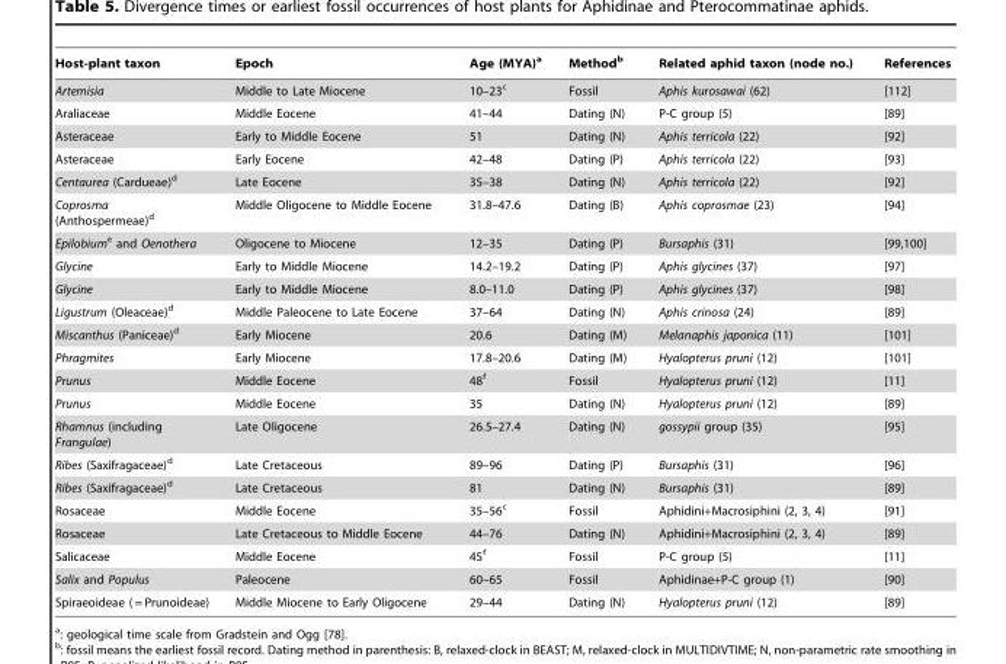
<table><thead><tr><td>Host-plant taxon</td><td>Epoch</td><td>Age (MYA)<sup>a</sup></td><td>Method<sup>b</sup></td><td>Related aphid taxon (node no.)</td><td>References</td></tr></thead><tbody><tr><td>Artemisia</td><td>Middle to Late Miocene</td><td>10–23<sup>c</sup></td><td>Fossil</td><td>Aphis kurosawai (62)</td><td>[112]</td></tr><tr><td>Araliaceae</td><td>Middle Eocene</td><td>41–44</td><td>Dating (N)</td><td>P-C group (5)</td><td>[89]</td></tr><tr><td>Asteraceae</td><td>Early to Middle Eocene</td><td>51</td><td>Dating (N)</td><td>Aphis terricola (22)</td><td>[92]</td></tr><tr><td>Asteraceae</td><td>Early Eocene</td><td>42–48</td><td>Dating (P)</td><td>Aphis terricola (22)</td><td>[93]</td></tr><tr><td>Centaurea (Cardueae)<sup>d</sup></td><td>Late Eocene</td><td>35–38</td><td>Dating (N)</td><td>Aphis terricola (22)</td><td>[92]</td></tr><tr><td>Coprosma (Anthospermeae)<sup>d</sup></td><td>Middle Oligocene to Middle Eocene</td><td>31.8–47.6</td><td>Dating (B)</td><td>Aphis coprosmae (23)</td><td>[94]</td></tr><tr><td>Epilobiume and Oenothera</td><td>Oligocene to Miocene</td><td>12–35</td><td>Dating (P)</td><td>Bursaphis (31)</td><td>[99,100]</td></tr><tr><td>Glycine</td><td>Early to Middle Miocene</td><td>14.2–19.2</td><td>Dating (P)</td><td>Aphis glycines (37)</td><td>[97]</td></tr><tr><td>Glycine</td><td>Early to Middle Miocene</td><td>8.0–11.0</td><td>Dating (P)</td><td>Aphis glycines (37)</td><td>[98]</td></tr><tr><td>Ligustrum (Oleaceae)<sup>d</sup></td><td>Middle Paleocene to Late Eocene</td><td>37–64</td><td>Dating (N)</td><td>Aphis crinosa (24)</td><td>[89]</td></tr><tr><td>Miscanthus (Paniceae)<sup>d</sup></td><td>Early Miocene</td><td>20.6</td><td>Dating (M)</td><td>Melanaphis japonica (11)</td><td>[101]</td></tr><tr><td>Phragmites</td><td>Early Miocene</td><td>17.8–20.6</td><td>Dating (M)</td><td>Hyalopterus pruni (12)</td><td>[101]</td></tr><tr><td>Prunus</td><td>Middle Eocene</td><td>48<sup>f</sup></td><td>Fossil</td><td>Hyalopterus pruni (12)</td><td>[11]</td></tr><tr><td>Prunus</td><td>Middle Eocene</td><td>35</td><td>Dating (N)</td><td>Hyalopterus pruni (12)</td><td>[89]</td></tr><tr><td>Rhamnus (including Frangulae)</td><td>Late Oligocene</td><td>26.5–27.4</td><td>Dating (N)</td><td>gossypii group (35)</td><td>[95]</td></tr><tr><td>Ribes (Saxifragaceae)<sup>d</sup></td><td>Late Cretaceous</td><td>89–96</td><td>Dating (P)</td><td>Bursaphis (31)</td><td>[96]</td></tr><tr><td>Ribes (Saxifragaceae)<sup>d</sup></td><td>Late Cretaceous</td><td>81</td><td>Dating (N)</td><td>Bursaphis (31)</td><td>[89]</td></tr><tr><td>Rosaceae</td><td>Middle Eocene</td><td>35–56<sup>c</sup></td><td>Fossil</td><td>Aphidini+Macrosiphini (2, 3, 4)</td><td>[91]</td></tr><tr><td>Rosaceae</td><td>Late Cretaceous to Middle Eocene</td><td>44–76</td><td>Dating (N)</td><td>Aphidini+Macrosiphini (2, 3, 4)</td><td>[89]</td></tr><tr><td>Salicaceae</td><td>Middle Eocene</td><td>45<sup>f</sup></td><td>Fossil</td><td>P-C group (5)</td><td>[11]</td></tr><tr><td>Salix and Populus</td><td>Paleocene</td><td>60–65</td><td>Fossil</td><td>Aphidinae+P-C group (1)</td><td>[90]</td></tr><tr><td>Spiraeoideae ( = Prunoideae)</td><td>Middle Miocene to Early Oligocene</td><td>29–44</td><td>Dating (N)</td><td>Hyalopterus pruni (12)</td><td>[89]</td></tr></tbody></table>